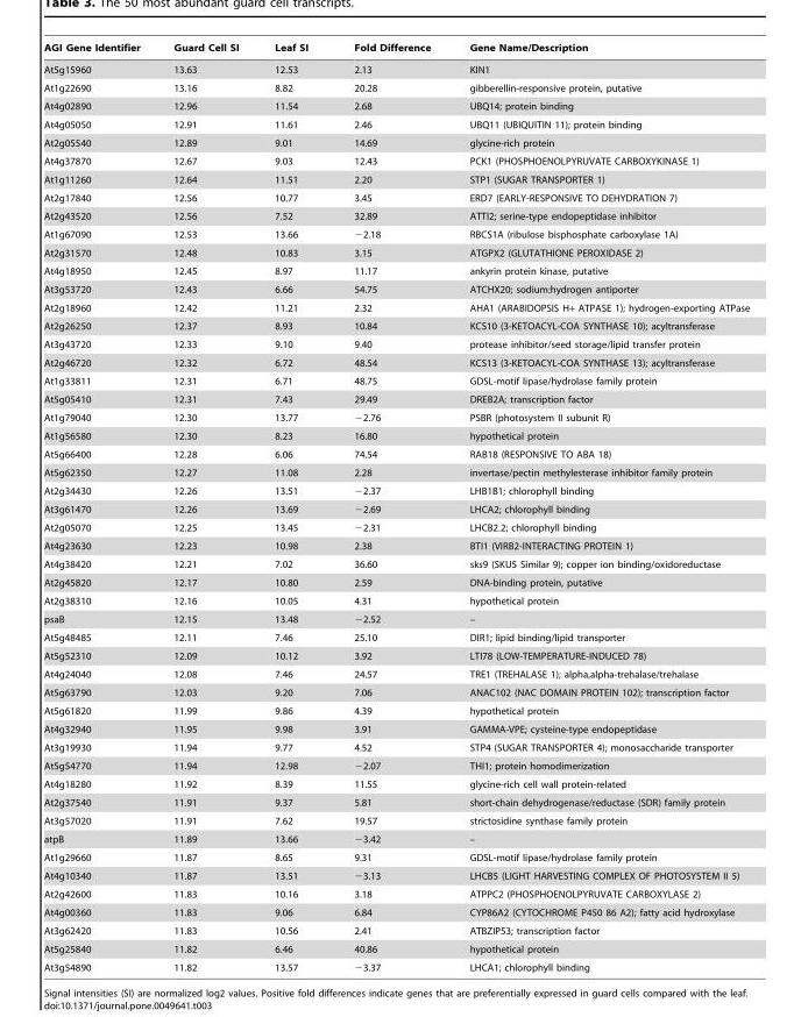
<table><thead><tr><td>AGI Gene Identifier</td><td>Guard Cell SI</td><td>Leaf SI</td><td>Fold Difference</td><td>Gene Name/Description</td></tr></thead><tbody><tr><td>At5g15960</td><td>13.63</td><td>12.53</td><td>2.13</td><td>KIN1</td></tr><tr><td>At1g22690</td><td>13.16</td><td>8.82</td><td>20.28</td><td>gibberellin-responsive protein, putative</td></tr><tr><td>At4g02890</td><td>12.96</td><td>11.54</td><td>2.68</td><td>UBQ14; protein binding</td></tr><tr><td>At4g05050</td><td>12.91</td><td>11.61</td><td>2.46</td><td>UBQ11 (UBIQUITIN 11); protein binding</td></tr><tr><td>At2g05540</td><td>12.89</td><td>9.01</td><td>14.69</td><td>glycine-rich protein</td></tr><tr><td>At4g37870</td><td>12.67</td><td>9.03</td><td>12.43</td><td>PCK1 (PHOSPHOENOLPYRUVATE CARBOXYKINASE 1)</td></tr><tr><td>At1g11260</td><td>12.64</td><td>11.51</td><td>2.20</td><td>STP1 (SUGAR TRANSPORTER 1)</td></tr><tr><td>At2g17840</td><td>12.56</td><td>10.77</td><td>3.45</td><td>ERD7 (EARLY-RESPONSIVE TO DEHYDRATION 7)</td></tr><tr><td>At2g43520</td><td>12.56</td><td>7.52</td><td>32.89</td><td>ATTI2; serine-type endopeptidase inhibitor</td></tr><tr><td>At1g67090</td><td>12.53</td><td>13.66</td><td>−2.18</td><td>RBCS1A (ribulose bisphosphate carboxylase 1A)</td></tr><tr><td>At2g31570</td><td>12.48</td><td>10.83</td><td>3.15</td><td>ATGPX2 (GLUTATHIONE PEROXIDASE 2)</td></tr><tr><td>At4g18950</td><td>12.45</td><td>8.97</td><td>11.17</td><td>ankyrin protein kinase, putative</td></tr><tr><td>At3g53720</td><td>12.43</td><td>6.66</td><td>54.75</td><td>ATCHX20; sodium:hydrogen antiporter</td></tr><tr><td>At2g18960</td><td>12.42</td><td>11.21</td><td>2.32</td><td>AHA1 (ARABIDOPSIS H+ ATPASE 1); hydrogen-exporting ATPase</td></tr><tr><td>At2g26250</td><td>12.37</td><td>8.93</td><td>10.84</td><td>KCS10 (3-KETOACYL-COA SYNTHASE 10); acyltransferase</td></tr><tr><td>At3g43720</td><td>12.33</td><td>9.10</td><td>9.40</td><td>protease inhibitor/seed storage/lipid transfer protein</td></tr><tr><td>At2g46720</td><td>12.32</td><td>6.72</td><td>48.54</td><td>KCS13 (3-KETOACYL-COA SYNTHASE 13); acyltransferase</td></tr><tr><td>At1g33811</td><td>12.31</td><td>6.71</td><td>48.75</td><td>GDSL-motif lipase/hydrolase family protein</td></tr><tr><td>At5g05410</td><td>12.31</td><td>7.43</td><td>29.49</td><td>DREB2A; transcription factor</td></tr><tr><td>At1g79040</td><td>12.30</td><td>13.77</td><td>−2.76</td><td>PSBR (photosystem II subunit R)</td></tr><tr><td>At1g56580</td><td>12.30</td><td>8.23</td><td>16.80</td><td>hypothetical protein</td></tr><tr><td>At5g66400</td><td>12.28</td><td>6.06</td><td>74.54</td><td>RAB18 (RESPONSIVE TO ABA 18)</td></tr><tr><td>At5g62350</td><td>12.27</td><td>11.08</td><td>2.28</td><td>invertase/pectin methylesterase inhibitor family protein</td></tr><tr><td>At2g34430</td><td>12.26</td><td>13.51</td><td>−2.37</td><td>LHB1B1; chlorophyll binding</td></tr><tr><td>At3g61470</td><td>12.26</td><td>13.69</td><td>−2.69</td><td>LHCA2; chlorophyll binding</td></tr><tr><td>At2g05070</td><td>12.25</td><td>13.45</td><td>−2.31</td><td>LHCB2.2; chlorophyll binding</td></tr><tr><td>At4g23630</td><td>12.23</td><td>10.98</td><td>2.38</td><td>BTI1 (VIRB2-INTERACTING PROTEIN 1)</td></tr><tr><td>At4g38420</td><td>12.21</td><td>7.02</td><td>36.60</td><td>sks9 (SKU5 Similar 9); copper ion binding/oxidoreductase</td></tr><tr><td>At2g45820</td><td>12.17</td><td>10.80</td><td>2.59</td><td>DNA-binding protein, putative</td></tr><tr><td>At2g38310</td><td>12.16</td><td>10.05</td><td>4.31</td><td>hypothetical protein</td></tr><tr><td>psaB</td><td>12.15</td><td>13.48</td><td>−2.52</td><td>–</td></tr><tr><td>At5g48485</td><td>12.11</td><td>7.46</td><td>25.10</td><td>DIR1; lipid binding/lipid transporter</td></tr><tr><td>At5g52310</td><td>12.09</td><td>10.12</td><td>3.92</td><td>LTI78 (LOW-TEMPERATURE-INDUCED 78)</td></tr><tr><td>At4g24040</td><td>12.08</td><td>7.46</td><td>24.57</td><td>TRE1 (TREHALASE 1); alpha,alpha-trehalase/trehalase</td></tr><tr><td>At5g63790</td><td>12.03</td><td>9.20</td><td>7.06</td><td>ANAC102 (NAC DOMAIN PROTEIN 102); transcription factor</td></tr><tr><td>At5g61820</td><td>11.99</td><td>9.86</td><td>4.39</td><td>hypothetical protein</td></tr><tr><td>At4g32940</td><td>11.95</td><td>9.98</td><td>3.91</td><td>GAMMA-VPE; cysteine-type endopeptidase</td></tr><tr><td>At3g19930</td><td>11.94</td><td>9.77</td><td>4.52</td><td>STP4 (SUGAR TRANSPORTER 4); monosaccharide transporter</td></tr><tr><td>At5g54770</td><td>11.94</td><td>12.98</td><td>−2.07</td><td>THI1; protein homodimerization</td></tr><tr><td>At4g18280</td><td>11.92</td><td>8.39</td><td>11.55</td><td>glycine-rich cell wall protein-related</td></tr><tr><td>At2g37540</td><td>11.91</td><td>9.37</td><td>5.81</td><td>short-chain dehydrogenase/reductase (SDR) family protein</td></tr><tr><td>At3g57020</td><td>11.91</td><td>7.62</td><td>19.57</td><td>strictosidine synthase family protein</td></tr><tr><td>atpB</td><td>11.89</td><td>13.66</td><td>−3.42</td><td>–</td></tr><tr><td>At1g29660</td><td>11.87</td><td>8.65</td><td>9.31</td><td>GDSL-motif lipase/hydrolase family protein</td></tr><tr><td>At4g10340</td><td>11.87</td><td>13.51</td><td>−3.13</td><td>LHCB5 (LIGHT HARVESTING COMPLEX OF PHOTOSYSTEM II 5)</td></tr><tr><td>At2g42600</td><td>11.83</td><td>10.16</td><td>3.18</td><td>ATPPC2 (PHOSPHOENOLPYRUVATE CARBOXYLASE 2)</td></tr><tr><td>At4g00360</td><td>11.83</td><td>9.06</td><td>6.84</td><td>CYP86A2 (CYTOCHROME P450 86 A2); fatty acid hydroxylase</td></tr><tr><td>At3g62420</td><td>11.83</td><td>10.56</td><td>2.41</td><td>ATBZIP53; transcription factor</td></tr><tr><td>At5g25840</td><td>11.82</td><td>6.46</td><td>40.86</td><td>hypothetical protein</td></tr><tr><td>At3g54890</td><td>11.82</td><td>13.57</td><td>−3.37</td><td>LHCA1; chlorophyll binding</td></tr></tbody></table>